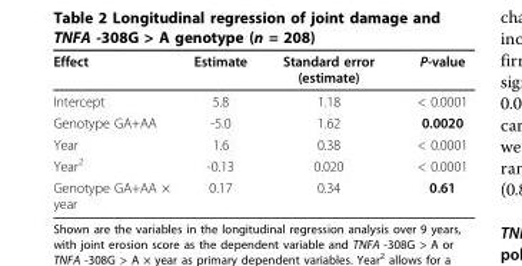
<table><thead><tr><td>Effect</td><td>Estimate</td><td>Standard error (estimate)</td><td>P-value</td></tr></thead><tbody><tr><td>Intercept</td><td>5.8</td><td>1.18</td><td>&lt; 0.0001</td></tr><tr><td>Genotype GA+AA</td><td>-5.0</td><td>1.62</td><td>0.0020</td></tr><tr><td>Year</td><td>1.6</td><td>0.38</td><td>&lt; 0.0001</td></tr><tr><td>Year<sup>2</sup></td><td>-0.13</td><td>0.020</td><td>&lt; 0.0001</td></tr><tr><td>Genotype GA+AA × year</td><td>0.17</td><td>0.34</td><td>0.61</td></tr></tbody></table>